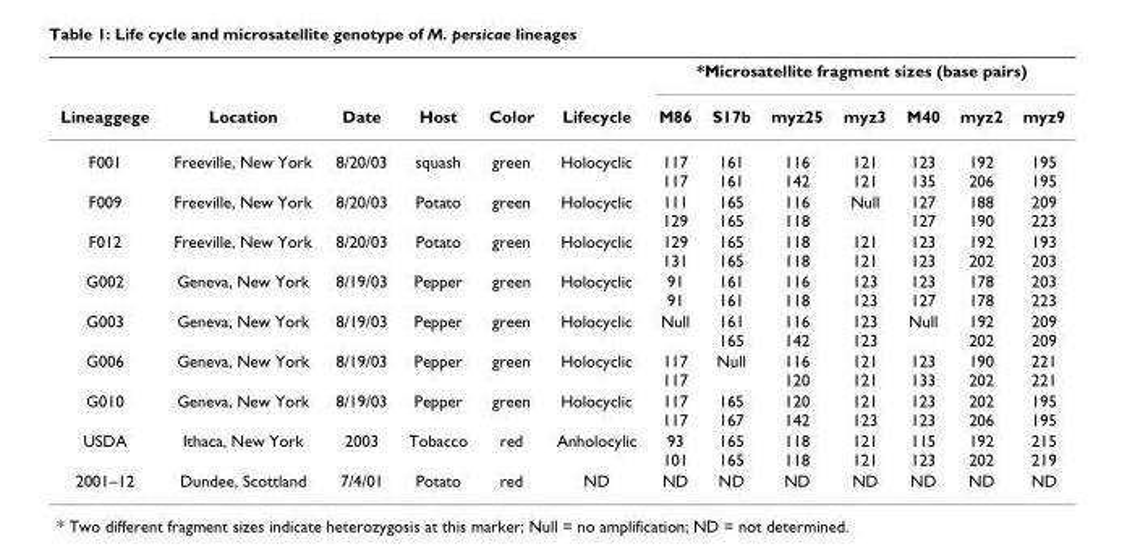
<table><thead><tr><td rowspan="2">Lineaggege</td><td rowspan="2">Location</td><td rowspan="2">Date</td><td rowspan="2">Host</td><td rowspan="2">Color</td><td rowspan="2">Lifecycle</td><td colspan="7">*Microsatellite fragment sizes (base pairs)</td></tr><tr><td>M86</td><td>S17b</td><td>myz25</td><td>myz3</td><td>M40</td><td>myz2</td><td>myz9</td></tr></thead><tbody><tr><td>F001</td><td>Freeville, New York</td><td>8/20/03</td><td>squash</td><td>green</td><td>Holocyclic</td><td>117 117</td><td>161 161</td><td>116 142</td><td>121 121</td><td>123 135</td><td>192 206</td><td>195 195</td></tr><tr><td>F009</td><td>Freeville, New York</td><td>8/20/03</td><td>Potato</td><td>green</td><td>Holocyclic</td><td>111 129</td><td>165 165</td><td>116 118</td><td>Null</td><td>127 127</td><td>188 190</td><td>209 223</td></tr><tr><td>F012</td><td>Freeville, New York</td><td>8/20/03</td><td>Potato</td><td>green</td><td>Holocyclic</td><td>129 131</td><td>165 165</td><td>118 118</td><td>121 121</td><td>123 123</td><td>192 202</td><td>193 203</td></tr><tr><td>G002</td><td>Geneva, New York</td><td>8/19/03</td><td>Pepper</td><td>green</td><td>Holocyclic</td><td>91 91</td><td>161 161</td><td>116 118</td><td>123 123</td><td>123 127</td><td>178 178</td><td>203 223</td></tr><tr><td>G003</td><td>Geneva, New York</td><td>8/19/03</td><td>Pepper</td><td>green</td><td>Holocyclic</td><td>Null</td><td>161 165</td><td>116 142</td><td>123 123</td><td>Null</td><td>192 202</td><td>209 209</td></tr><tr><td>G006</td><td>Geneva, New York</td><td>8/19/03</td><td>Pepper</td><td>green</td><td>Holocyclic</td><td>117 117</td><td>Null</td><td>116 120</td><td>121 121</td><td>123 133</td><td>190 202</td><td>221 221</td></tr><tr><td>G010</td><td>Geneva, New York</td><td>8/19/03</td><td>Pepper</td><td>green</td><td>Holocyclic</td><td>117 117</td><td>165 167</td><td>120 142</td><td>121 123</td><td>123 123</td><td>202 206</td><td>195 195</td></tr><tr><td>USDA</td><td>Ithaca, New York</td><td>2003</td><td>Tobacco</td><td>red</td><td>Anholocylic</td><td>93 101</td><td>165 165</td><td>118 118</td><td>121 121</td><td>115 123</td><td>192 202</td><td>215 219</td></tr><tr><td>2001–12</td><td>Dundee, Scottland</td><td>7/4/01</td><td>Potato</td><td>red</td><td>ND</td><td>ND</td><td>ND</td><td>ND</td><td>ND</td><td>ND</td><td>ND</td><td>ND</td></tr></tbody></table>